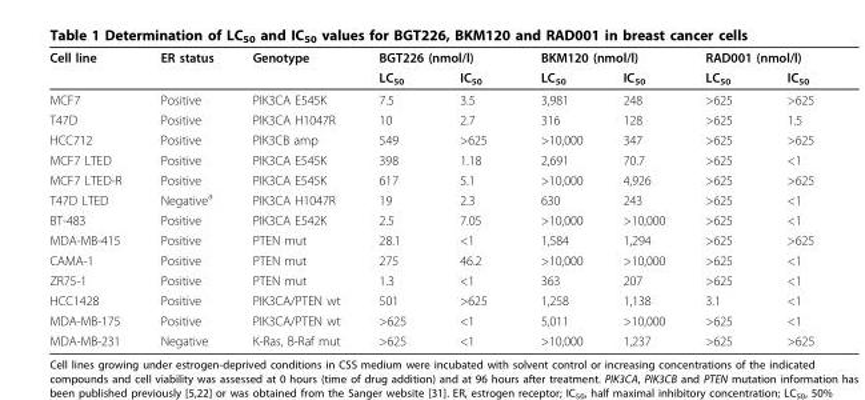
<table><thead><tr><td rowspan="2">Cell line</td><td rowspan="2">ER status</td><td rowspan="2">Genotype</td><td colspan="2">BGT226 (nmol/l)</td><td colspan="2">BKM120 (nmol/l)</td><td colspan="2">RAD001 (nmol/l)</td></tr><tr><td>LC<sub>50</sub></td><td>IC<sub>50</sub></td><td>LC<sub>50</sub></td><td>IC<sub>50</sub></td><td>LC<sub>50</sub></td><td>IC<sub>50</sub></td></tr></thead><tbody><tr><td>MCF7</td><td>Positive</td><td>PIK3CA E545K</td><td>7.5</td><td>3.5</td><td>3,981</td><td>248</td><td>&gt;625</td><td>&gt;625</td></tr><tr><td>T47D</td><td>Positive</td><td>PIK3CA H1047R</td><td>10</td><td>2.7</td><td>316</td><td>128</td><td>&gt;625</td><td>1.5</td></tr><tr><td>HCC712</td><td>Positive</td><td>PIK3CB amp</td><td>549</td><td>&gt;625</td><td>&gt;10,000</td><td>347</td><td>&gt;625</td><td>&gt;625</td></tr><tr><td>MCF7 LTED</td><td>Positive</td><td>PIK3CA E545K</td><td>398</td><td>1.18</td><td>2,691</td><td>70.7</td><td>&gt;625</td><td>&lt;1</td></tr><tr><td>MCF7 LTED-R</td><td>Positive</td><td>PIK3CA E545K</td><td>617</td><td>5.1</td><td>&gt;10,000</td><td>4,926</td><td>&gt;625</td><td>&gt;625</td></tr><tr><td>T47D LTED</td><td>Negative<sup>a</sup></td><td>PIK3CA H1047R</td><td>19</td><td>2.3</td><td>630</td><td>243</td><td>&gt;625</td><td>&lt;1</td></tr><tr><td>BT-483</td><td>Positive</td><td>PIK3CA E542K</td><td>2.5</td><td>7.05</td><td>&gt;10,000</td><td>&gt;10,000</td><td>&gt;625</td><td>&lt;1</td></tr><tr><td>MDA-MB-415</td><td>Positive</td><td>PTEN mut</td><td>28.1</td><td>&lt;1</td><td>1,584</td><td>1,294</td><td>&gt;625</td><td>&gt;625</td></tr><tr><td>CAMA-1</td><td>Positive</td><td>PTEN mut</td><td>275</td><td>46.2</td><td>&gt;10,000</td><td>&gt;10,000</td><td>&gt;625</td><td>&lt;1</td></tr><tr><td>ZR75-1</td><td>Positive</td><td>PTEN mut</td><td>1.3</td><td>&lt;1</td><td>363</td><td>207</td><td>&gt;625</td><td>&lt;1</td></tr><tr><td>HCC1428</td><td>Positive</td><td>PIK3CA/PTEN wt</td><td>501</td><td>&gt;625</td><td>1,258</td><td>1,138</td><td>3.1</td><td>&lt;1</td></tr><tr><td>MDA-MB-175</td><td>Positive</td><td>PIK3CA/PTEN wt</td><td>&gt;625</td><td>&lt;1</td><td>5,011</td><td>&gt;10,000</td><td>&gt;625</td><td>&lt;1</td></tr><tr><td>MDA-MB-231</td><td>Negative</td><td>K-Ras, B-Raf mut</td><td>&gt;625</td><td>&lt;1</td><td>&gt;10,000</td><td>1,237</td><td>&gt;625</td><td>&gt;625</td></tr></tbody></table>